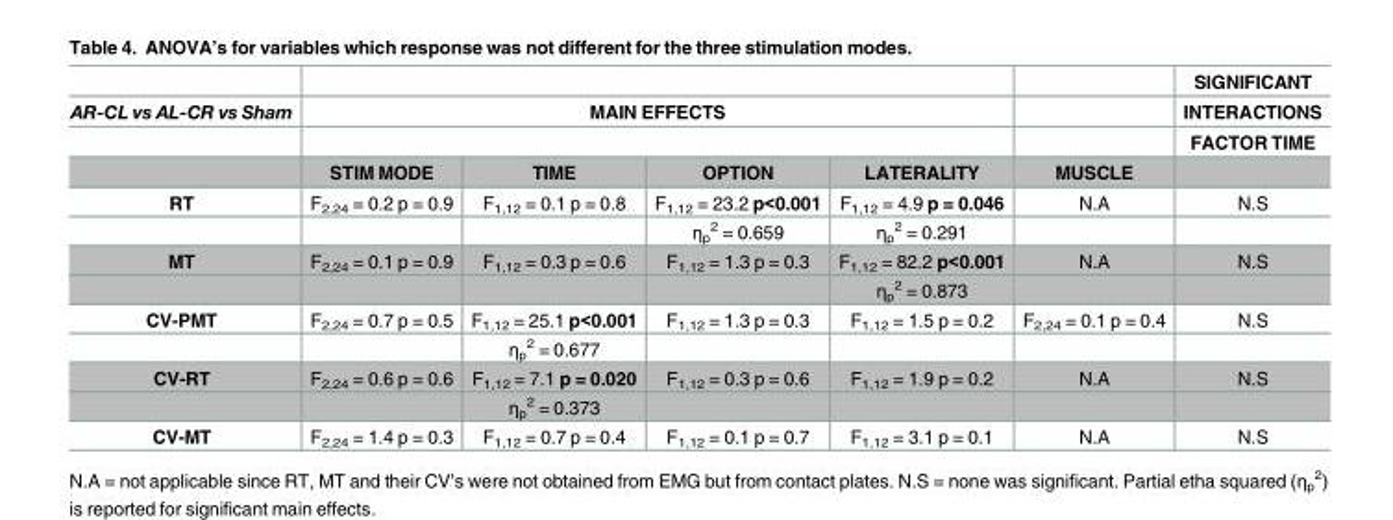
<table><thead><tr><td rowspan="4">AR-CL vs AL-CR vs Sham</td><td></td><td></td><td></td><td></td><td rowspan="4">MUSCLE</td><td rowspan="4">SIGNIFICANT INTERACTIONS FACTOR TIME</td></tr><tr><td colspan="4">MAIN EFFECTS</td></tr><tr><td rowspan="2">STIM MODE</td><td rowspan="2">TIME</td><td rowspan="2">OPTION</td><td rowspan="2">LATERALITY</td></tr><tr></tr></thead><tbody><tr><td rowspan="2">RT</td><td>F<sub>2,24</sub> = 0.2 p = 0.9</td><td>F<sub>1,12</sub> = 0.1 p = 0.8</td><td>F<sub>1,12</sub> = 23.2 p&lt;0.001</td><td>F<sub>1,12</sub> = 4.9 p = 0.046</td><td>N.A</td><td>N.S</td></tr><tr><td></td><td></td><td>η<sub>p</sub> <sup>2</sup> = 0.659</td><td>η<sub>p</sub> <sup>2</sup> = 0.291</td><td></td><td></td></tr><tr><td rowspan="2">MT</td><td>F<sub>2,24</sub> = 0.1 p = 0.9</td><td>F<sub>1,12</sub> = 0.3 p = 0.6</td><td>F<sub>1,12</sub> = 1.3 p = 0.3</td><td>F<sub>1,12</sub> = 82.2 p&lt;0.001</td><td>N.A</td><td>N.S</td></tr><tr><td></td><td></td><td></td><td>η<sub>p</sub> <sup>2</sup> = 0.873</td><td></td><td></td></tr><tr><td rowspan="2">CV-PMT</td><td>F<sub>2,24</sub> = 0.7 p = 0.5</td><td>F<sub>1,12</sub> = 25.1 p&lt;0.001</td><td>F<sub>1,12</sub> = 1.3 p = 0.3</td><td>F<sub>1,12</sub> = 1.5 p = 0.2</td><td>F<sub>2,24</sub> = 0.1 p = 0.4</td><td>N.S</td></tr><tr><td></td><td>η<sub>p</sub> <sup>2</sup> = 0.677</td><td></td><td></td><td></td><td></td></tr><tr><td rowspan="2">CV-RT</td><td>F<sub>2,24</sub> = 0.6 p = 0.6</td><td>F<sub>1,12</sub> = 7.1 p = 0.020</td><td>F<sub>1,12</sub> = 0.3 p = 0.6</td><td>F<sub>1,12</sub> = 1.9 p = 0.2</td><td>N.A</td><td>N.S</td></tr><tr><td></td><td>η<sub>p</sub> <sup>2</sup> = 0.373</td><td></td><td></td><td></td><td></td></tr><tr><td>CV-MT</td><td>F<sub>2,24</sub> = 1.4 p = 0.3</td><td>F<sub>1,12</sub> = 0.7 p = 0.4</td><td>F<sub>1,12</sub> = 0.1 p = 0.7</td><td>F<sub>1,12</sub> = 3.1 p = 0.1</td><td>N.A</td><td>N.S</td></tr></tbody></table>